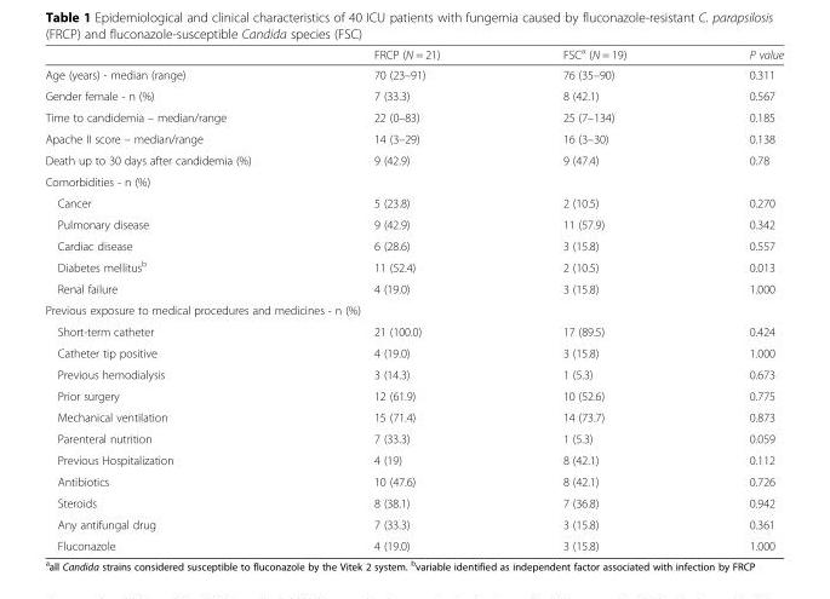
<table><thead><tr><td></td><td>FRCP (N = 21)</td><td>FSC<sup>a</sup> (N = 19)</td><td>P value</td></tr></thead><tbody><tr><td>Age (years) - median (range)</td><td>70 (23–91)</td><td>76 (35–90)</td><td>0.311</td></tr><tr><td>Gender female - n (%)</td><td>7 (33.3)</td><td>8 (42.1)</td><td>0.567</td></tr><tr><td>Time to candidemia – median/range</td><td>22 (0–83)</td><td>25 (7–134)</td><td>0.185</td></tr><tr><td>Apache II score – median/range</td><td>14 (3–29)</td><td>16 (3–30)</td><td>0.138</td></tr><tr><td>Death up to 30 days after candidemia (%)</td><td>9 (42.9)</td><td>9 (47.4)</td><td>0.78</td></tr><tr><td colspan="4">Comorbidities - n (%)</td></tr><tr><td>Cancer</td><td>5 (23.8)</td><td>2 (10.5)</td><td>0.270</td></tr><tr><td>Pulmonary disease</td><td>9 (42.9)</td><td>11 (57.9)</td><td>0.342</td></tr><tr><td>Cardiac disease</td><td>6 (28.6)</td><td>3 (15.8)</td><td>0.557</td></tr><tr><td>Diabetes mellitus<sup>b</sup></td><td>11 (52.4)</td><td>2 (10.5)</td><td>0.013</td></tr><tr><td>Renal failure</td><td>4 (19.0)</td><td>3 (15.8)</td><td>1.000</td></tr><tr><td colspan="4">Previous exposure to medical procedures and medicines - n (%)</td></tr><tr><td>Short-term catheter</td><td>21 (100.0)</td><td>17 (89.5)</td><td>0.424</td></tr><tr><td>Catheter tip positive</td><td>4 (19.0)</td><td>3 (15.8)</td><td>1.000</td></tr><tr><td>Previous hemodialysis</td><td>3 (14.3)</td><td>1 (5.3)</td><td>0.673</td></tr><tr><td>Prior surgery</td><td>12 (61.9)</td><td>10 (52.6)</td><td>0.775</td></tr><tr><td>Mechanical ventilation</td><td>15 (71.4)</td><td>14 (73.7)</td><td>0.873</td></tr><tr><td>Parenteral nutrition</td><td>7 (33.3)</td><td>1 (5.3)</td><td>0.059</td></tr><tr><td>Previous Hospitalization</td><td>4 (19)</td><td>8 (42.1)</td><td>0.112</td></tr><tr><td>Antibiotics</td><td>10 (47.6)</td><td>8 (42.1)</td><td>0.726</td></tr><tr><td>Steroids</td><td>8 (38.1)</td><td>7 (36.8)</td><td>0.942</td></tr><tr><td>Any antifungal drug</td><td>7 (33.3)</td><td>3 (15.8)</td><td>0.361</td></tr><tr><td>Fluconazole</td><td>4 (19.0)</td><td>3 (15.8)</td><td>1.000</td></tr></tbody></table>